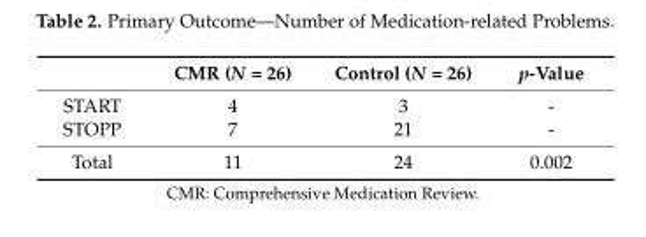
<table><thead><tr><td></td><td>CMR (N = 26)</td><td>Control (N = 26)</td><td>p-Value</td></tr></thead><tbody><tr><td>START</td><td>4</td><td>3</td><td>-</td></tr><tr><td>STOPP</td><td>7</td><td>21</td><td>-</td></tr><tr><td>Total</td><td>11</td><td>24</td><td>0.002</td></tr></tbody></table>